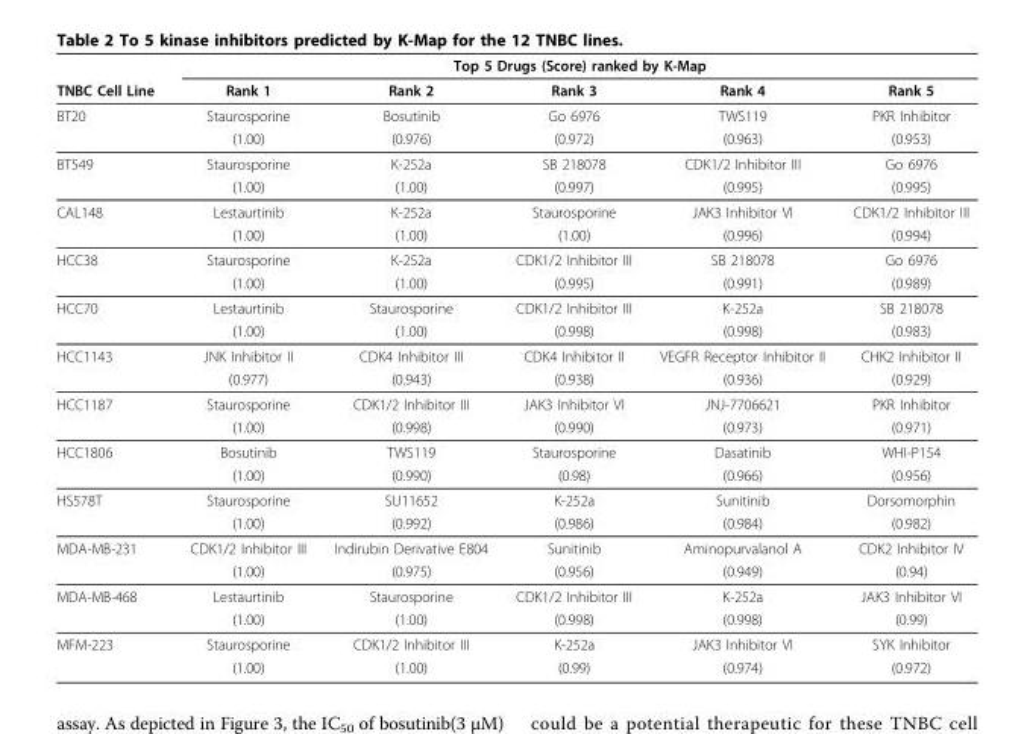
<table><thead><tr><td rowspan="2">TNBC Cell Line</td><td colspan="5">Top 5 Drugs (Score) ranked by K-Map</td></tr><tr><td>Rank 1</td><td>Rank 2</td><td>Rank 3</td><td>Rank 4</td><td>Rank 5</td></tr></thead><tbody><tr><td rowspan="2">BT20</td><td>Staurosporine</td><td>Bosutinib</td><td>Go 6976</td><td>TWS119</td><td>PKR Inhibitor</td></tr><tr><td>(1.00)</td><td>(0.976)</td><td>(0.972)</td><td>(0.963)</td><td>(0.953)</td></tr><tr><td rowspan="2">BT549</td><td>Staurosporine</td><td>K-252a</td><td>SB 218078</td><td>CDK1/2 Inhibitor III</td><td>Go 6976</td></tr><tr><td>(1.00)</td><td>(1.00)</td><td>(0.997)</td><td>(0.995)</td><td>(0.995)</td></tr><tr><td rowspan="2">CAL148</td><td>Lestaurtinib</td><td>K-252a</td><td>Staurosporine</td><td>JAK3 Inhibitor VI</td><td>CDK1/2 Inhibitor III</td></tr><tr><td>(1.00)</td><td>(1.00)</td><td>(1.00)</td><td>(0.996)</td><td>(0.994)</td></tr><tr><td rowspan="2">HCC38</td><td>Staurosporine</td><td>K-252a</td><td>CDK1/2 Inhibitor III</td><td>SB 218078</td><td>Go 6976</td></tr><tr><td>(1.00)</td><td>(1.00)</td><td>(0.995)</td><td>(0.991)</td><td>(0.989)</td></tr><tr><td rowspan="2">HCC70</td><td>Lestaurtinib</td><td>Staurosporine</td><td>CDK1/2 Inhibitor III</td><td>K-252a</td><td>SB 218078</td></tr><tr><td>(1.00)</td><td>(1.00)</td><td>(0.998)</td><td>(0.998)</td><td>(0.983)</td></tr><tr><td rowspan="2">HCC1143</td><td>JNK Inhibitor II</td><td>CDK4 Inhibitor III</td><td>CDK4 Inhibitor II</td><td>VEGFR Receptor Inhibitor II</td><td>CHK2 Inhibitor II</td></tr><tr><td>(0.977)</td><td>(0.943)</td><td>(0.938)</td><td>(0.936)</td><td>(0.929)</td></tr><tr><td rowspan="2">HCC1187</td><td>Staurosporine</td><td>CDK1/2 Inhibitor III</td><td>JAK3 Inhibitor VI</td><td>JNJ-7706621</td><td>PKR Inhibitor</td></tr><tr><td>(1.00)</td><td>(0.998)</td><td>(0.990)</td><td>(0.973)</td><td>(0.971)</td></tr><tr><td rowspan="2">HCC1806</td><td>Bosutinib</td><td>TWS119</td><td>Staurosporine</td><td>Dasatinib</td><td>WHI-P154</td></tr><tr><td>(1.00)</td><td>(0.990)</td><td>(0.98)</td><td>(0.966)</td><td>(0.956)</td></tr><tr><td rowspan="2">HS578T</td><td>Staurosporine</td><td>SU11652</td><td>K-252a</td><td>Sunitinib</td><td>Dorsomorphin</td></tr><tr><td>(1.00)</td><td>(0.992)</td><td>(0.986)</td><td>(0.984)</td><td>(0.982)</td></tr><tr><td rowspan="2">MDA-MB-231</td><td>CDK1/2 Inhibitor III</td><td>Indirubin Derivative E804</td><td>Sunitinib</td><td>Aminopurvalanol A</td><td>CDK2 Inhibitor IV</td></tr><tr><td>(1.00)</td><td>(0.975)</td><td>(0.956)</td><td>(0.949)</td><td>(0.94)</td></tr><tr><td rowspan="2">MDA-MB-468</td><td>Lestaurtinib</td><td>Staurosporine</td><td>CDK1/2 Inhibitor III</td><td>K-252a</td><td>JAK3 Inhibitor VI</td></tr><tr><td>(1.00)</td><td>(1.00)</td><td>(0.998)</td><td>(0.998)</td><td>(0.99)</td></tr><tr><td rowspan="2">MFM-223</td><td>Staurosporine</td><td>CDK1/2 Inhibitor III</td><td>K-252a</td><td>JAK3 Inhibitor VI</td><td>SYK Inhibitor</td></tr><tr><td>(1.00)</td><td>(1.00)</td><td>(0.99)</td><td>(0.974)</td><td>(0.972)</td></tr></tbody></table>